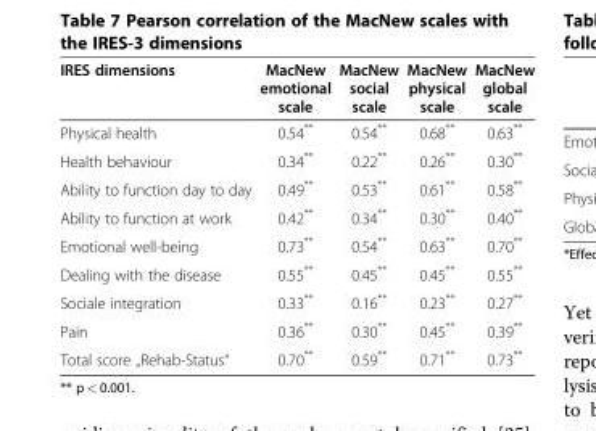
<table><thead><tr><td>IRES dimensions</td><td>MacNew emotional scale</td><td>MacNew social scale</td><td>MacNew physical scale</td><td>MacNew global scale</td></tr></thead><tbody><tr><td>Physical health</td><td>0.54**</td><td>0.54**</td><td>0.68**</td><td>0.63**</td></tr><tr><td>Health behaviour</td><td>0.34**</td><td>0.22**</td><td>0.26**</td><td>0.30**</td></tr><tr><td>Ability to function day to day</td><td>0.49**</td><td>0.53**</td><td>0.61**</td><td>0.58**</td></tr><tr><td>Ability to function at work</td><td>0.42**</td><td>0.34**</td><td>0.30**</td><td>0.40**</td></tr><tr><td>Emotional well-being</td><td>0.73**</td><td>0.54**</td><td>0.63**</td><td>0.70**</td></tr><tr><td>Dealing with the disease</td><td>0.55**</td><td>0.45**</td><td>0.45**</td><td>0.55**</td></tr><tr><td>Sociale integration</td><td>0.33**</td><td>0.16**</td><td>0.23**</td><td>0.27**</td></tr><tr><td>Pain</td><td>0.36**</td><td>0.30**</td><td>0.45**</td><td>0.39**</td></tr><tr><td>Total score „Rehab-Status“</td><td>0.70**</td><td>0.59**</td><td>0.71**</td><td>0.73**</td></tr></tbody></table>